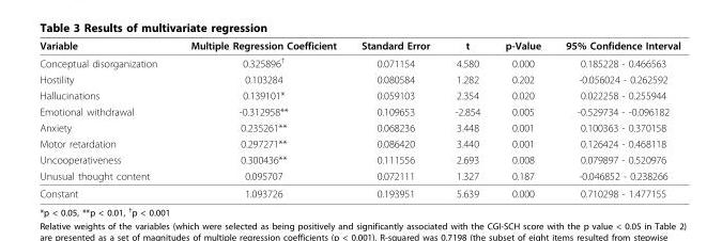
<table><thead><tr><td>Variable</td><td>Multiple Regression Coefficient</td><td>Standard Error</td><td>t</td><td>p-Value</td><td>95% Confidence Interval</td></tr></thead><tbody><tr><td>Conceptual disorganization</td><td>0.325896<sup>†</sup></td><td>0.071154</td><td>4.580</td><td>0.000</td><td>0.185228 - 0.466563</td></tr><tr><td>Hostility</td><td>0.103284</td><td>0.080584</td><td>1.282</td><td>0.202</td><td>-0.056024 - 0.262592</td></tr><tr><td>Hallucinations</td><td>0.139101*</td><td>0.059103</td><td>2.354</td><td>0.020</td><td>0.022258 - 0.255944</td></tr><tr><td>Emotional withdrawal</td><td>-0.312958**</td><td>0.109653</td><td>-2.854</td><td>0.005</td><td>-0.529734 - -0.096182</td></tr><tr><td>Anxiety</td><td>0.235261**</td><td>0.068236</td><td>3.448</td><td>0.001</td><td>0.100363 - 0.370158</td></tr><tr><td>Motor retardation</td><td>0.297271**</td><td>0.086420</td><td>3.440</td><td>0.001</td><td>0.126424 - 0.468118</td></tr><tr><td>Uncooperativeness</td><td>0.300436**</td><td>0.111556</td><td>2.693</td><td>0.008</td><td>0.079897 - 0.520976</td></tr><tr><td>Unusual thought content</td><td>0.095707</td><td>0.072111</td><td>1.327</td><td>0.187</td><td>-0.046852 - 0.238266</td></tr><tr><td>Constant</td><td>1.093726</td><td>0.193951</td><td>5.639</td><td>0.000</td><td>0.710298 - 1.477155</td></tr></tbody></table>